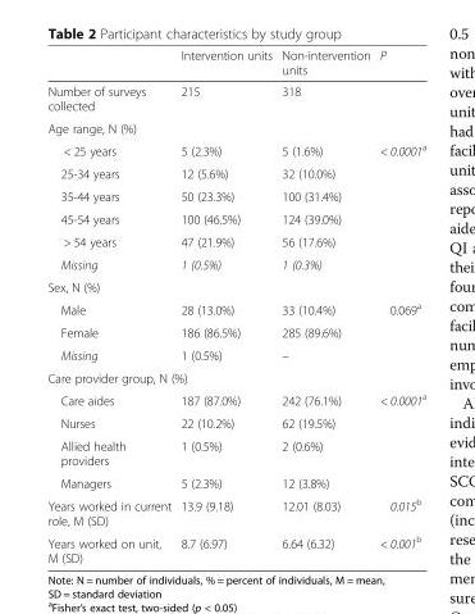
<table><thead><tr><td></td><td>Intervention units</td><td>Non-intervention units</td><td>P</td></tr></thead><tbody><tr><td>Number of surveys collected</td><td>215</td><td>318</td><td></td></tr><tr><td colspan="4">Age range, N (%)</td></tr><tr><td>&lt; 25 years</td><td>5 (2.3%)</td><td>5 (1.6%)</td><td rowspan="6">&lt; 0.0001<sup>a</sup></td></tr><tr><td>25-34 years</td><td>12 (5.6%)</td><td>32 (10.0%)</td></tr><tr><td>35-44 years</td><td>50 (23.3%)</td><td>100 (31.4%)</td></tr><tr><td>45-54 years</td><td>100 (46.5%)</td><td>124 (39.0%)</td></tr><tr><td>&gt; 54 years</td><td>47 (21.9%)</td><td>56 (17.6%)</td></tr><tr><td>Missing</td><td>1 (0.5%)</td><td>1 (0.3%)</td></tr><tr><td colspan="4">Sex, N (%)</td></tr><tr><td>Male</td><td>28 (13.0%)</td><td>33 (10.4%)</td><td rowspan="3">0.069<sup>a</sup></td></tr><tr><td>Female</td><td>186 (86.5%)</td><td>285 (89.6%)</td></tr><tr><td>Missing</td><td>1 (0.5%)</td><td>–</td></tr><tr><td colspan="4">Care provider group, N (%)</td></tr><tr><td>Care aides</td><td>187 (87.0%)</td><td>242 (76.1%)</td><td rowspan="4">&lt; 0.0001<sup>a</sup></td></tr><tr><td>Nurses</td><td>22 (10.2%)</td><td>62 (19.5%)</td></tr><tr><td>Allied health providers</td><td>1 (0.5%)</td><td>2 (0.6%)</td></tr><tr><td>Managers</td><td>5 (2.3%)</td><td>12 (3.8%)</td></tr><tr><td>Years worked in current role, M (SD)</td><td>13.9 (9.18)</td><td>12.01 (8.03)</td><td>0.015<sup>b</sup></td></tr><tr><td>Years worked on unit, M (SD)</td><td>8.7 (6.97)</td><td>6.64 (6.32)</td><td>&lt; 0.001<sup>b</sup></td></tr></tbody></table>